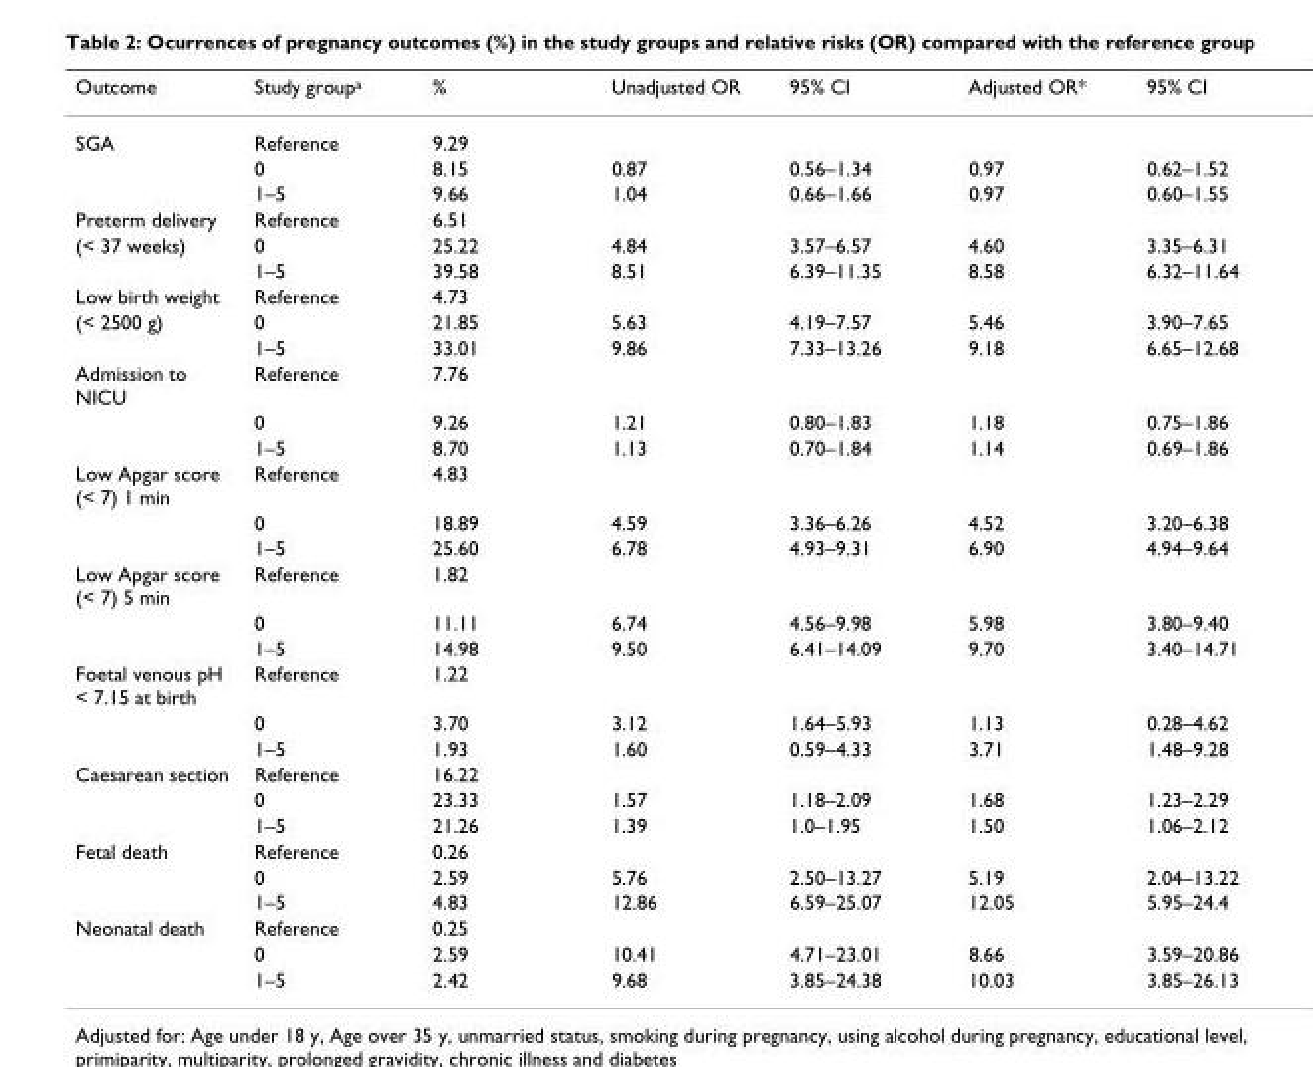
<table><thead><tr><td>Outcome</td><td>Study group<sup>a</sup></td><td>%</td><td>Unadjusted OR</td><td>95% CI</td><td>Adjusted OR*</td><td>95% CI</td></tr></thead><tbody><tr><td rowspan="3">SGA</td><td>Reference</td><td>9.29</td><td></td><td></td><td></td><td></td></tr><tr><td>0</td><td>8.15</td><td>0.87</td><td>0.56–1.34</td><td>0.97</td><td>0.62–1.52</td></tr><tr><td>1–5</td><td>9.66</td><td>1.04</td><td>0.66–1.66</td><td>0.97</td><td>0.60–1.55</td></tr><tr><td>Preterm delivery</td><td>Reference</td><td>6.51</td><td></td><td></td><td></td><td></td></tr><tr><td rowspan="2">(&lt; 37 weeks)</td><td>0</td><td>25.22</td><td>4.84</td><td>3.57–6.57</td><td>4.60</td><td>3.35–6.31</td></tr><tr><td>1–5</td><td>39.58</td><td>8.51</td><td>6.39–11.35</td><td>8.58</td><td>6.32–11.64</td></tr><tr><td>Low birth weight</td><td>Reference</td><td>4.73</td><td></td><td></td><td></td><td></td></tr><tr><td rowspan="2">(&lt; 2500 g)</td><td>0</td><td>21.85</td><td>5.63</td><td>4.19–7.57</td><td>5.46</td><td>3.90–7.65</td></tr><tr><td>1–5</td><td>33.01</td><td>9.86</td><td>7.33–13.26</td><td>9.18</td><td>6.65–12.68</td></tr><tr><td rowspan="3">Admission to NICU</td><td>Reference</td><td>7.76</td><td></td><td></td><td></td><td></td></tr><tr><td>0</td><td>9.26</td><td>1.21</td><td>0.80–1.83</td><td>1.18</td><td>0.75–1.86</td></tr><tr><td>1–5</td><td>8.70</td><td>1.13</td><td>0.70–1.84</td><td>1.14</td><td>0.69–1.86</td></tr><tr><td rowspan="3">Low Apgar score (&lt; 7) 1 min</td><td>Reference</td><td>4.83</td><td></td><td></td><td></td><td></td></tr><tr><td>0</td><td>18.89</td><td>4.59</td><td>3.36–6.26</td><td>4.52</td><td>3.20–6.38</td></tr><tr><td>1–5</td><td>25.60</td><td>6.78</td><td>4.93–9.31</td><td>6.90</td><td>4.94–9.64</td></tr><tr><td rowspan="3">Low Apgar score (&lt; 7) 5 min</td><td>Reference</td><td>1.82</td><td></td><td></td><td></td><td></td></tr><tr><td>0</td><td>11.11</td><td>6.74</td><td>4.56–9.98</td><td>5.98</td><td>3.80–9.40</td></tr><tr><td>1–5</td><td>14.98</td><td>9.50</td><td>6.41–14.09</td><td>9.70</td><td>3.40–14.71</td></tr><tr><td rowspan="3">Foetal venous pH &lt; 7.15 at birth</td><td>Reference</td><td>1.22</td><td></td><td></td><td></td><td></td></tr><tr><td>0</td><td>3.70</td><td>3.12</td><td>1.64–5.93</td><td>1.13</td><td>0.28–4.62</td></tr><tr><td>1–5</td><td>1.93</td><td>1.60</td><td>0.59–4.33</td><td>3.71</td><td>1.48–9.28</td></tr><tr><td rowspan="3">Caesarean section</td><td>Reference</td><td>16.22</td><td></td><td></td><td></td><td></td></tr><tr><td>0</td><td>23.33</td><td>1.57</td><td>1.18–2.09</td><td>1.68</td><td>1.23–2.29</td></tr><tr><td>1–5</td><td>21.26</td><td>1.39</td><td>1.0–1.95</td><td>1.50</td><td>1.06–2.12</td></tr><tr><td rowspan="3">Fetal death</td><td>Reference</td><td>0.26</td><td></td><td></td><td></td><td></td></tr><tr><td>0</td><td>2.59</td><td>5.76</td><td>2.50–13.27</td><td>5.19</td><td>2.04–13.22</td></tr><tr><td>1–5</td><td>4.83</td><td>12.86</td><td>6.59–25.07</td><td>12.05</td><td>5.95–24.4</td></tr><tr><td rowspan="3">Neonatal death</td><td>Reference</td><td>0.25</td><td></td><td></td><td></td><td></td></tr><tr><td>0</td><td>2.59</td><td>10.41</td><td>4.71–23.01</td><td>8.66</td><td>3.59–20.86</td></tr><tr><td>1–5</td><td>2.42</td><td>9.68</td><td>3.85–24.38</td><td>10.03</td><td>3.85–26.13</td></tr></tbody></table>